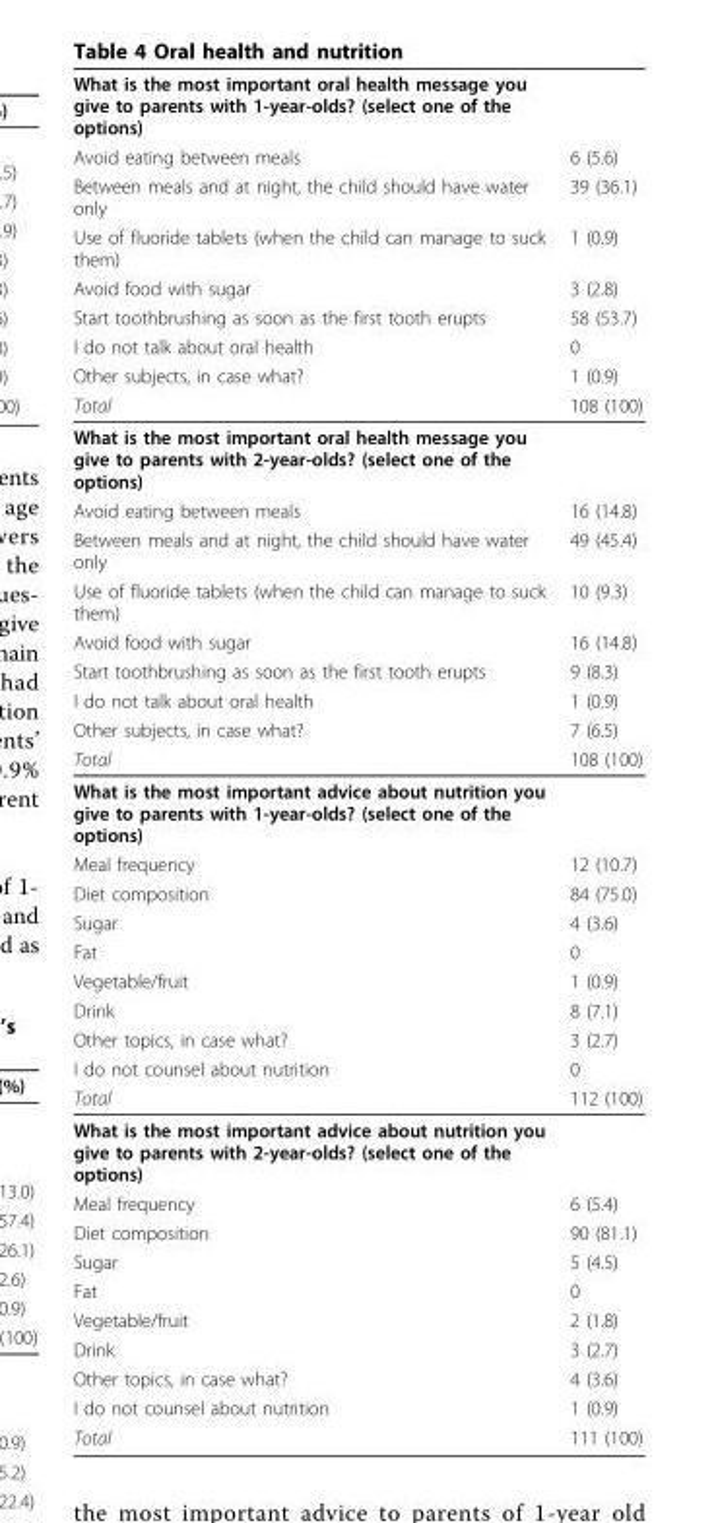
<table><thead><tr><td rowspan="9">What is the most important oral health message you give to parents with 1-year-olds? (select one of the options) Avoid eating between meals Between meals and at night, the child should have water only Use of fluoride tablets (when the child can manage to suck them) Avoid food with sugar Start toothbrushing as soon as the first tooth erupts I do not talk about oral health Other subjects, in case what? Total</td><td rowspan="9">6 (5.6) 39 (36.1) 1 (0.9) 3 (2.8) 58 (53.7) 0 1 (0.9) 108 (100)</td></tr><tr></tr><tr></tr><tr></tr><tr></tr><tr></tr><tr></tr><tr></tr><tr></tr></thead><tbody><tr><td colspan="2">What is the most important oral health message you give to parents with 2-year-olds? (select one of the options)</td></tr><tr><td>Avoid eating between meals</td><td>16 (14.8)</td></tr><tr><td>Between meals and at night, the child should have water only</td><td>49 (45.4)</td></tr><tr><td>Use of fluoride tablets (when the child can manage to suck them)</td><td>10 (9.3)</td></tr><tr><td>Avoid food with sugar</td><td>16 (14.8)</td></tr><tr><td>Start toothbrushing as soon as the first tooth erupts</td><td>9 (8.3)</td></tr><tr><td>I do not talk about oral health</td><td>1 (0.9)</td></tr><tr><td>Other subjects, in case what?</td><td>7 (6.5)</td></tr><tr><td>Total</td><td>108 (100)</td></tr><tr><td colspan="2">What is the most important advice about nutrition you give to parents with 1-year-olds? (select one of the options)</td></tr><tr><td>Meal frequency</td><td>12 (10.7)</td></tr><tr><td>Diet composition</td><td>84 (75.0)</td></tr><tr><td>Sugar</td><td>4 (3.6)</td></tr><tr><td>Fat</td><td>0</td></tr><tr><td>Vegetable/fruit</td><td>1 (0.9)</td></tr><tr><td>Drink</td><td>8 (7.1)</td></tr><tr><td>Other topics, in case what?</td><td>3 (2.7)</td></tr><tr><td>I do not counsel about nutrition</td><td>0</td></tr><tr><td>Total</td><td>112 (100)</td></tr><tr><td colspan="2">What is the most important advice about nutrition you give to parents with 2-year-olds? (select one of the options)</td></tr><tr><td>Meal frequency</td><td>6 (5.4)</td></tr><tr><td>Diet composition</td><td>90 (81.1)</td></tr><tr><td>Sugar</td><td>5 (4.5)</td></tr><tr><td>Fat</td><td>0</td></tr><tr><td>Vegetable/fruit</td><td>2 (1.8)</td></tr><tr><td>Drink</td><td>3 (2.7)</td></tr><tr><td>Other topics, in case what?</td><td>4 (3.6)</td></tr><tr><td>I do not counsel about nutrition</td><td>1 (0.9)</td></tr><tr><td>Total</td><td>111 (100)</td></tr></tbody></table>